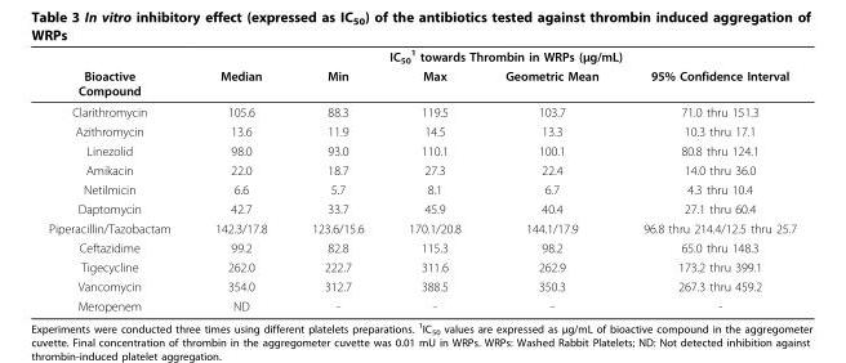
<table><thead><tr><td rowspan="2">Bioactive Compound</td><td colspan="5">IC<sub>50</sub> <sup>1</sup> towards Thrombin in WRPs (μg/mL)</td></tr><tr><td>Median</td><td>Min</td><td>Max</td><td>Geometric Mean</td><td>95% Confidence Interval</td></tr></thead><tbody><tr><td>Clarithromycin</td><td>105.6</td><td>88.3</td><td>119.5</td><td>103.7</td><td>71.0 thru 151.3</td></tr><tr><td>Azithromycin</td><td>13.6</td><td>11.9</td><td>14.5</td><td>13.3</td><td>10.3 thru 17.1</td></tr><tr><td>Linezolid</td><td>98.0</td><td>93.0</td><td>110.1</td><td>100.1</td><td>80.8 thru 124.1</td></tr><tr><td>Amikacin</td><td>22.0</td><td>18.7</td><td>27.3</td><td>22.4</td><td>14.0 thru 36.0</td></tr><tr><td>Netilmicin</td><td>6.6</td><td>5.7</td><td>8.1</td><td>6.7</td><td>4.3 thru 10.4</td></tr><tr><td>Daptomycin</td><td>42.7</td><td>33.7</td><td>45.9</td><td>40.4</td><td>27.1 thru 60.4</td></tr><tr><td>Piperacillin/Tazobactam</td><td>142.3/17.8</td><td>123.6/15.6</td><td>170.1/20.8</td><td>144.1/17.9</td><td>96.8 thru 214.4/12.5 thru 25.7</td></tr><tr><td>Ceftazidime</td><td>99.2</td><td>82.8</td><td>115.3</td><td>98.2</td><td>65.0 thru 148.3</td></tr><tr><td>Tigecycline</td><td>262.0</td><td>222.7</td><td>311.6</td><td>262.9</td><td>173.2 thru 399.1</td></tr><tr><td>Vancomycin</td><td>354.0</td><td>312.7</td><td>388.5</td><td>350.3</td><td>267.3 thru 459.2</td></tr><tr><td>Meropenem</td><td>ND</td><td>-</td><td>-</td><td>-</td><td>-</td></tr></tbody></table>